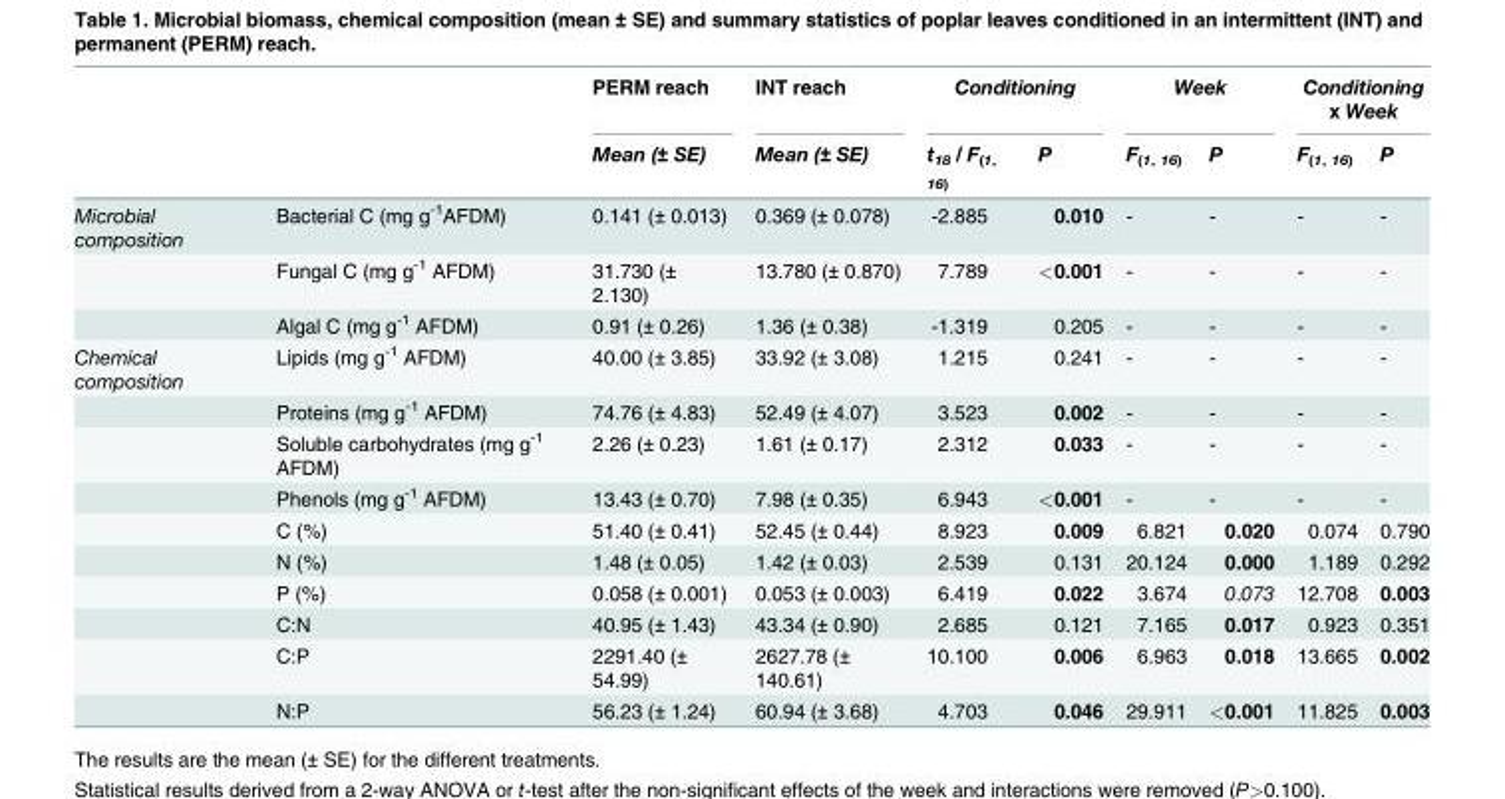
<table><thead><tr><td rowspan="2"></td><td rowspan="2"></td><td rowspan="2">PERM reach Mean (± SE)</td><td rowspan="2">INT reach Mean (± SE)</td><td colspan="2">Conditioning</td><td colspan="2">Week</td><td colspan="2">Conditioning x Week</td></tr><tr><td>t<sub>18</sub> / F<sub>(1, 16)</sub></td><td>P</td><td>F<sub>(1, 16)</sub></td><td>P</td><td>F<sub>(1, 16)</sub></td><td>P</td></tr></thead><tbody><tr><td rowspan="3">Microbial composition</td><td>Bacterial C (mg g<sup>-1</sup>AFDM)</td><td>0.141 (± 0.013)</td><td>0.369 (± 0.078)</td><td>-2.885</td><td>0.010</td><td>-</td><td>-</td><td>-</td><td>-</td></tr><tr><td>Fungal C (mg g<sup>-1</sup> AFDM)</td><td>31.730 (± 2.130)</td><td>13.780 (± 0.870)</td><td>7.789</td><td>&lt;0.001</td><td>-</td><td>-</td><td>-</td><td>-</td></tr><tr><td>Algal C (mg g<sup>-1</sup> AFDM)</td><td>0.91 (± 0.26)</td><td>1.36 (± 0.38)</td><td>-1.319</td><td>0.205</td><td>-</td><td>-</td><td>-</td><td>-</td></tr><tr><td rowspan="10">Chemical composition</td><td>Lipids (mg g<sup>-1</sup> AFDM)</td><td>40.00 (± 3.85)</td><td>33.92 (± 3.08)</td><td>1.215</td><td>0.241</td><td>-</td><td>-</td><td>-</td><td>-</td></tr><tr><td>Proteins (mg g<sup>-1</sup> AFDM)</td><td>74.76 (± 4.83)</td><td>52.49 (± 4.07)</td><td>3.523</td><td>0.002</td><td>-</td><td>-</td><td>-</td><td>-</td></tr><tr><td>Soluble carbohydrates (mg g<sup>-1</sup> AFDM)</td><td>2.26 (± 0.23)</td><td>1.61 (± 0.17)</td><td>2.312</td><td>0.033</td><td>-</td><td>-</td><td>-</td><td>-</td></tr><tr><td>Phenols (mg g<sup>-1</sup> AFDM)</td><td>13.43 (± 0.70)</td><td>7.98 (± 0.35)</td><td>6.943</td><td>&lt;0.001</td><td>-</td><td>-</td><td>-</td><td>-</td></tr><tr><td>C (%)</td><td>51.40 (± 0.41)</td><td>52.45 (± 0.44)</td><td>8.923</td><td>0.009</td><td>6.821</td><td>0.020</td><td>0.074</td><td>0.790</td></tr><tr><td>N (%)</td><td>1.48 (± 0.05)</td><td>1.42 (± 0.03)</td><td>2.539</td><td>0.131</td><td>20.124</td><td>0.000</td><td>1.189</td><td>0.292</td></tr><tr><td>P (%)</td><td>0.058 (± 0.001)</td><td>0.053 (± 0.003)</td><td>6.419</td><td>0.022</td><td>3.674</td><td>0.073</td><td>12.708</td><td>0.003</td></tr><tr><td>C:N</td><td>40.95 (± 1.43)</td><td>43.34 (± 0.90)</td><td>2.685</td><td>0.121</td><td>7.165</td><td>0.017</td><td>0.923</td><td>0.351</td></tr><tr><td>C:P</td><td>2291.40 (± 54.99)</td><td>2627.78 (± 140.61)</td><td>10.100</td><td>0.006</td><td>6.963</td><td>0.018</td><td>13.665</td><td>0.002</td></tr><tr><td>N:P</td><td>56.23 (± 1.24)</td><td>60.94 (± 3.68)</td><td>4.703</td><td>0.046</td><td>29.911</td><td>&lt;0.001</td><td>11.825</td><td>0.003</td></tr></tbody></table>